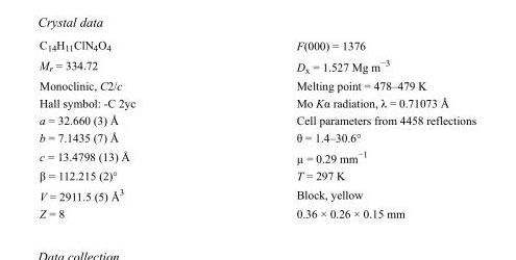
<table><tbody><tr><td>C<sub>14</sub>H<sub>11</sub>ClN<sub>4</sub>O<sub>4</sub></td><td>F(000) = 1376</td></tr><tr><td>M<sub>r</sub> = 334.72</td><td>D<sub>x</sub> = 1.527 Mg m<sup>−3</sup></td></tr><tr><td>Monoclinic, C2/c</td><td>Melting point = 478–479 K</td></tr><tr><td>Hall symbol: -C 2yc</td><td>Mo Kα radiation, λ = 0.71073 Å</td></tr><tr><td>a = 32.660 (3) Å</td><td>Cell parameters from 4458 reflections</td></tr><tr><td>b = 7.1435 (7) Å</td><td>θ = 1.4–30.6°</td></tr><tr><td>c = 13.4798 (13) Å</td><td>µ = 0.29 mm<sup>−1</sup></td></tr><tr><td>β = 112.215 (2)°</td><td>T = 297 K</td></tr><tr><td>V = 2911.5 (5) Å<sup>3</sup></td><td>Block, yellow</td></tr><tr><td>Z = 8</td><td>0.36 × 0.26 × 0.15 mm</td></tr></tbody></table>